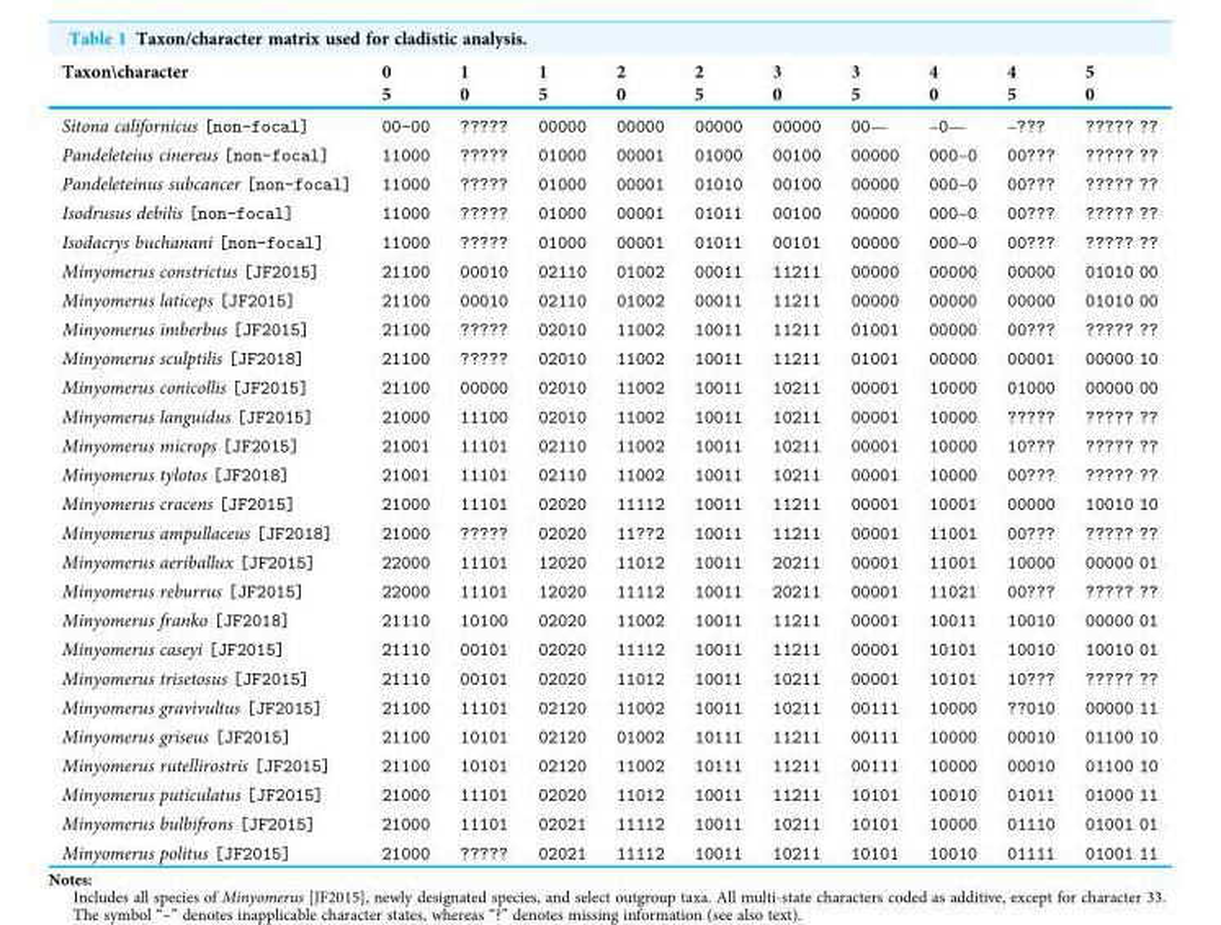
<table><thead><tr><td rowspan="2">Taxon\character</td><td rowspan="2">0 5</td><td rowspan="2">1 0</td><td rowspan="2">1 5</td><td rowspan="2">2 0</td><td rowspan="2">2 5</td><td rowspan="2">3 0</td><td rowspan="2">3 5</td><td rowspan="2">4 0</td><td rowspan="2">4 5</td><td rowspan="2">5 0</td></tr><tr></tr></thead><tbody><tr><td>Sitona californicus [non-focal]</td><td>00-00</td><td>?????</td><td>00000</td><td>00000</td><td>00000</td><td>00000</td><td>00—</td><td>–0—</td><td>–???</td><td>????? ??</td></tr><tr><td>Pandeleteius cinereus [non-focal]</td><td>11000</td><td>?????</td><td>01000</td><td>00001</td><td>01000</td><td>00100</td><td>00000</td><td>000–0</td><td>00???</td><td>????? ??</td></tr><tr><td>Pandeleteinus subcancer [non-focal]</td><td>11000</td><td>?????</td><td>01000</td><td>00001</td><td>01010</td><td>00100</td><td>00000</td><td>000–0</td><td>00???</td><td>????? ??</td></tr><tr><td>Isodrusus debilis [non-focal]</td><td>11000</td><td>?????</td><td>01000</td><td>00001</td><td>01011</td><td>00100</td><td>00000</td><td>000–0</td><td>00???</td><td>????? ??</td></tr><tr><td>Isodacrys buchanani [non-focal]</td><td>11000</td><td>?????</td><td>01000</td><td>00001</td><td>01011</td><td>00101</td><td>00000</td><td>000–0</td><td>00???</td><td>????? ??</td></tr><tr><td>Minyomerus constrictus [JF2015]</td><td>21100</td><td>00010</td><td>02110</td><td>01002</td><td>00011</td><td>11211</td><td>00000</td><td>00000</td><td>00000</td><td>01010 00</td></tr><tr><td>Minyomerus laticeps [JF2015]</td><td>21100</td><td>00010</td><td>02110</td><td>01002</td><td>00011</td><td>11211</td><td>00000</td><td>00000</td><td>00000</td><td>01010 00</td></tr><tr><td>Minyomerus imberbus [JF2015]</td><td>21100</td><td>?????</td><td>02010</td><td>11002</td><td>10011</td><td>11211</td><td>01001</td><td>00000</td><td>00???</td><td>????? ??</td></tr><tr><td>Minyomerus sculptilis [JF2018]</td><td>21100</td><td>?????</td><td>02010</td><td>11002</td><td>10011</td><td>11211</td><td>01001</td><td>00000</td><td>00001</td><td>00000 10</td></tr><tr><td>Minyomerus conicollis [JF2015]</td><td>21100</td><td>00000</td><td>02010</td><td>11002</td><td>10011</td><td>10211</td><td>00001</td><td>10000</td><td>01000</td><td>00000 00</td></tr><tr><td>Minyomerus languidus [JF2015]</td><td>21000</td><td>11100</td><td>02010</td><td>11002</td><td>10011</td><td>10211</td><td>00001</td><td>10000</td><td>?????</td><td>????? ??</td></tr><tr><td>Minyomerus microps [JF2015]</td><td>21001</td><td>11101</td><td>02110</td><td>11002</td><td>10011</td><td>10211</td><td>00001</td><td>10000</td><td>10???</td><td>????? ??</td></tr><tr><td>Minyomerus tylotos [JF2018]</td><td>21001</td><td>11101</td><td>02110</td><td>11002</td><td>10011</td><td>10211</td><td>00001</td><td>10000</td><td>00???</td><td>????? ??</td></tr><tr><td>Minyomerus cracens [JF2015]</td><td>21000</td><td>11101</td><td>02020</td><td>11112</td><td>10011</td><td>11211</td><td>00001</td><td>10001</td><td>00000</td><td>10010 10</td></tr><tr><td>Minyomerus ampullaceus [JF2018]</td><td>21000</td><td>?????</td><td>02020</td><td>11??2</td><td>10011</td><td>11211</td><td>00001</td><td>11001</td><td>00???</td><td>????? ??</td></tr><tr><td>Minyomerus aeriballux [JF2015]</td><td>22000</td><td>11101</td><td>12020</td><td>11012</td><td>10011</td><td>20211</td><td>00001</td><td>11001</td><td>10000</td><td>00000 01</td></tr><tr><td>Minyomerus reburrus [JF2015]</td><td>22000</td><td>11101</td><td>12020</td><td>11112</td><td>10011</td><td>20211</td><td>00001</td><td>11021</td><td>00???</td><td>????? ??</td></tr><tr><td>Minyomerus franko [JF2018]</td><td>21110</td><td>10100</td><td>02020</td><td>11002</td><td>10011</td><td>11211</td><td>00001</td><td>10011</td><td>10010</td><td>00000 01</td></tr><tr><td>Minyomerus caseyi [JF2015]</td><td>21110</td><td>00101</td><td>02020</td><td>11112</td><td>10011</td><td>11211</td><td>00001</td><td>10101</td><td>10010</td><td>10010 01</td></tr><tr><td>Minyomerus trisetosus [JF2015]</td><td>21110</td><td>00101</td><td>02020</td><td>11012</td><td>10011</td><td>10211</td><td>00001</td><td>10101</td><td>10???</td><td>????? ??</td></tr><tr><td>Minyomerus gravivultus [JF2015]</td><td>21100</td><td>11101</td><td>02120</td><td>11002</td><td>10011</td><td>10211</td><td>00111</td><td>10000</td><td>??010</td><td>00000 11</td></tr><tr><td>Minyomerus griseus [JF2015]</td><td>21100</td><td>10101</td><td>02120</td><td>01002</td><td>10111</td><td>11211</td><td>00111</td><td>10000</td><td>00010</td><td>01100 10</td></tr><tr><td>Minyomerus rutellirostris [JF2015]</td><td>21100</td><td>10101</td><td>02120</td><td>11002</td><td>10111</td><td>11211</td><td>00111</td><td>10000</td><td>00010</td><td>01100 10</td></tr><tr><td>Minyomerus puticulatus [JF2015]</td><td>21000</td><td>11101</td><td>02020</td><td>11012</td><td>10011</td><td>11211</td><td>10101</td><td>10010</td><td>01011</td><td>01000 11</td></tr><tr><td>Minyomerus bulbifrons [JF2015]</td><td>21000</td><td>11101</td><td>02021</td><td>11112</td><td>10011</td><td>10211</td><td>10101</td><td>10000</td><td>01110</td><td>01001 01</td></tr><tr><td>Minyomerus politus [JF2015]</td><td>21000</td><td>?????</td><td>02021</td><td>11112</td><td>10011</td><td>10211</td><td>10101</td><td>10010</td><td>01111</td><td>01001 11</td></tr></tbody></table>